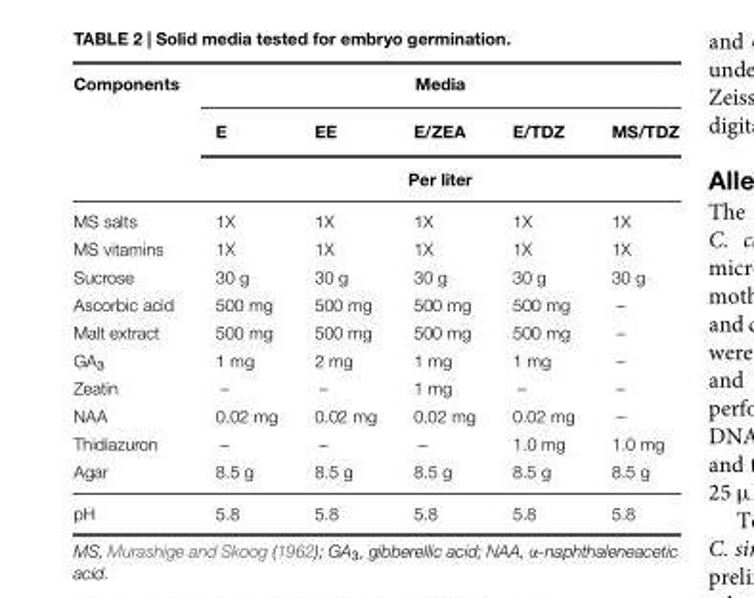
<table><thead><tr><td rowspan="3">Components</td><td colspan="5">Media</td></tr><tr><td>E</td><td>EE</td><td>E/ZEA</td><td>E/TDZ</td><td>MS/TDZ</td></tr><tr><td colspan="5">Per liter</td></tr></thead><tbody><tr><td>MS salts</td><td>1X</td><td>1X</td><td>1X</td><td>1X</td><td>1X</td></tr><tr><td>MS vitamins</td><td>1X</td><td>1X</td><td>1X</td><td>1X</td><td>1X</td></tr><tr><td>Sucrose</td><td>30 g</td><td>30 g</td><td>30 g</td><td>30 g</td><td>30 g</td></tr><tr><td>Ascorbic acid</td><td>500 mg</td><td>500 mg</td><td>500 mg</td><td>500 mg</td><td>–</td></tr><tr><td>Malt extract</td><td>500 mg</td><td>500 mg</td><td>500 mg</td><td>500 mg</td><td>–</td></tr><tr><td>GA<sub>3</sub></td><td>1 mg</td><td>2 mg</td><td>1 mg</td><td>1 mg</td><td>–</td></tr><tr><td>Zeatin</td><td>–</td><td>–</td><td>1 mg</td><td>–</td><td>–</td></tr><tr><td>NAA</td><td>0.02 mg</td><td>0.02 mg</td><td>0.02 mg</td><td>0.02 mg</td><td>–</td></tr><tr><td>Thidiazuron</td><td>–</td><td>–</td><td>–</td><td>1.0 mg</td><td>1.0 mg</td></tr><tr><td>Agar</td><td>8.5 g</td><td>8.5 g</td><td>8.5 g</td><td>8.5 g</td><td>8.5 g</td></tr><tr><td>pH</td><td>5.8</td><td>5.8</td><td>5.8</td><td>5.8</td><td>5.8</td></tr></tbody></table>